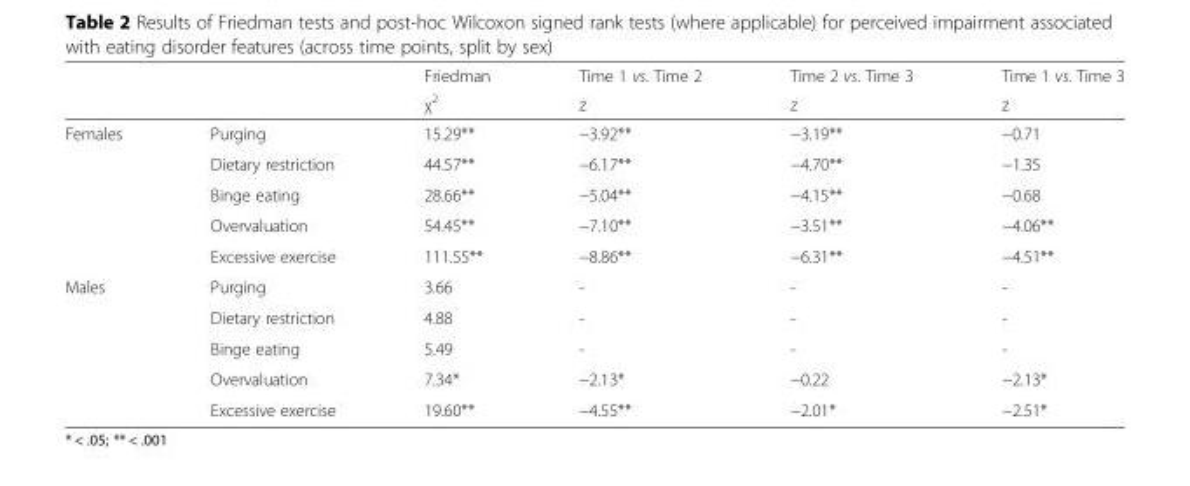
<table><thead><tr><td rowspan="2"></td><td rowspan="2"></td><td rowspan="2">Friedman χ<sup>2</sup></td><td rowspan="2">Time 1 vs. Time 2 z</td><td rowspan="2">Time 2 vs. Time 3 z</td><td rowspan="2">Time 1 vs. Time 3 z</td></tr><tr></tr></thead><tbody><tr><td rowspan="5">Females</td><td>Purging</td><td>15.29**</td><td>−3.92**</td><td>−3.19**</td><td>−0.71</td></tr><tr><td>Dietary restriction</td><td>44.57**</td><td>−6.17**</td><td>−4.70**</td><td>−1.35</td></tr><tr><td>Binge eating</td><td>28.66**</td><td>−5.04**</td><td>−4.15**</td><td>−0.68</td></tr><tr><td>Overvaluation</td><td>54.45**</td><td>−7.10**</td><td>−3.51**</td><td>−4.06**</td></tr><tr><td>Excessive exercise</td><td>111.55**</td><td>−8.86**</td><td>−6.31**</td><td>−4.51**</td></tr><tr><td rowspan="5">Males</td><td>Purging</td><td>3.66</td><td>-</td><td>-</td><td>-</td></tr><tr><td>Dietary restriction</td><td>4.88</td><td>-</td><td>-</td><td>-</td></tr><tr><td>Binge eating</td><td>5.49</td><td>-</td><td>-</td><td>-</td></tr><tr><td>Overvaluation</td><td>7.34*</td><td>−2.13*</td><td>−0.22</td><td>−2.13*</td></tr><tr><td>Excessive exercise</td><td>19.60**</td><td>−4.55**</td><td>−2.01*</td><td>−2.51*</td></tr></tbody></table>